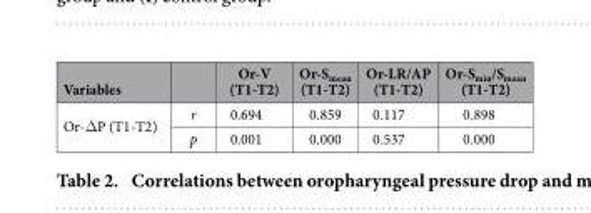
<table><thead><tr><td>Variables</td><td></td><td>Or-V (T1-T2)</td><td>Or-S<sub>mean</sub> (T1-T2)</td><td>Or-LR/AP (T1-T2)</td><td>Or-S<sub>min</sub>/S<sub>mean</sub> (T1-T2)</td></tr></thead><tbody><tr><td rowspan="2">Or-Δ P (T1-T2)</td><td>r</td><td>0.694</td><td>0.859</td><td>0.117</td><td>0.898</td></tr><tr><td>p</td><td>0.001</td><td>0.000</td><td>0.537</td><td>0.000</td></tr></tbody></table>